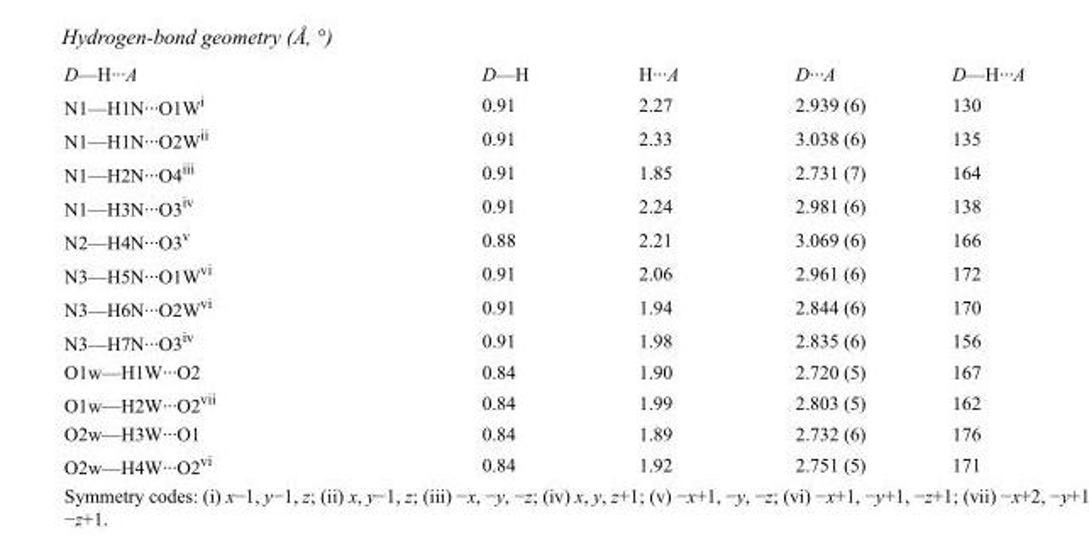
<table><tbody><tr><td>D—H···A</td><td>D—H</td><td>H···A</td><td>D···A</td><td>D—H···A</td></tr><tr><td>N1—H1N···O1W<sup>i</sup></td><td>0.91</td><td>2.27</td><td>2.939 (6)</td><td>130</td></tr><tr><td>N1—H1N···O2W<sup>ii</sup></td><td>0.91</td><td>2.33</td><td>3.038 (6)</td><td>135</td></tr><tr><td>N1—H2N···O4<sup>iii</sup></td><td>0.91</td><td>1.85</td><td>2.731 (7)</td><td>164</td></tr><tr><td>N1—H3N···O3<sup>iv</sup></td><td>0.91</td><td>2.24</td><td>2.981 (6)</td><td>138</td></tr><tr><td>N2—H4N···O3<sup>v</sup></td><td>0.88</td><td>2.21</td><td>3.069 (6)</td><td>166</td></tr><tr><td>N3—H5N···O1W<sup>vi</sup></td><td>0.91</td><td>2.06</td><td>2.961 (6)</td><td>172</td></tr><tr><td>N3—H6N···O2W<sup>vi</sup></td><td>0.91</td><td>1.94</td><td>2.844 (6)</td><td>170</td></tr><tr><td>N3—H7N···O3<sup>iv</sup></td><td>0.91</td><td>1.98</td><td>2.835 (6)</td><td>156</td></tr><tr><td>O1w—H1W···O2</td><td>0.84</td><td>1.90</td><td>2.720 (5)</td><td>167</td></tr><tr><td>O1w—H2W···O2<sup>vii</sup></td><td>0.84</td><td>1.99</td><td>2.803 (5)</td><td>162</td></tr><tr><td>O2w—H3W···O1</td><td>0.84</td><td>1.89</td><td>2.732 (6)</td><td>176</td></tr><tr><td>O2w—H4W···O2<sup>vi</sup></td><td>0.84</td><td>1.92</td><td>2.751 (5)</td><td>171</td></tr></tbody></table>